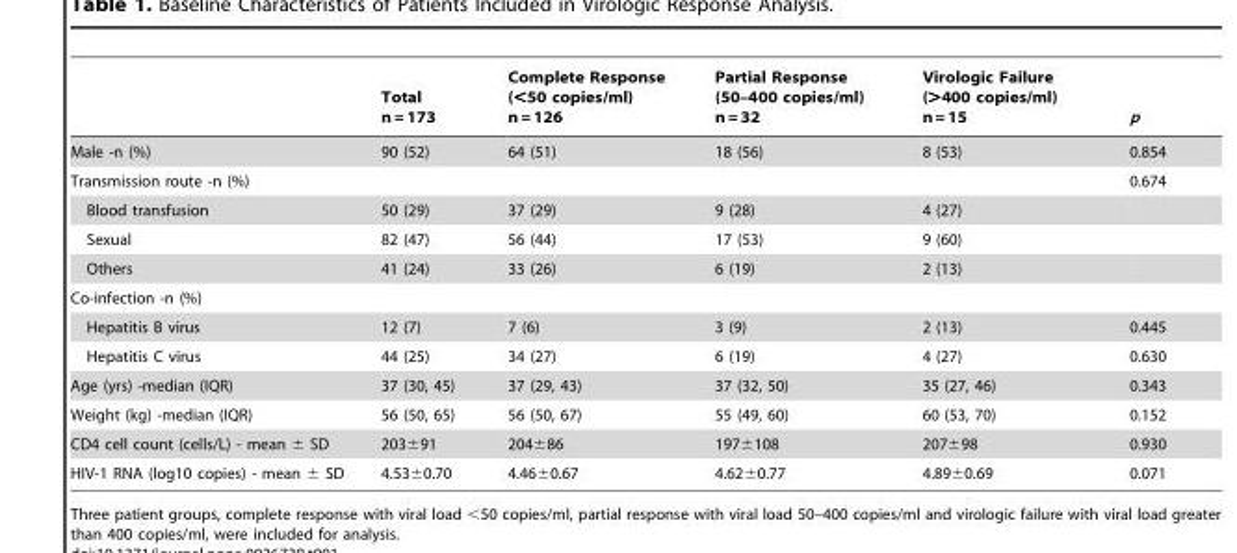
<table><thead><tr><td></td><td>Total n = 173</td><td>Complete Response (&lt;50 copies/ml) n = 126</td><td>Partial Response (50–400 copies/ml) n = 32</td><td>Virologic Failure (&gt;400 copies/ml) n = 15</td><td>p</td></tr></thead><tbody><tr><td>Male -n (%)</td><td>90 (52)</td><td>64 (51)</td><td>18 (56)</td><td>8 (53)</td><td>0.854</td></tr><tr><td>Transmission route -n (%)</td><td></td><td></td><td></td><td></td><td>0.674</td></tr><tr><td>Blood transfusion</td><td>50 (29)</td><td>37 (29)</td><td>9 (28)</td><td>4 (27)</td><td></td></tr><tr><td>Sexual</td><td>82 (47)</td><td>56 (44)</td><td>17 (53)</td><td>9 (60)</td><td></td></tr><tr><td>Others</td><td>41 (24)</td><td>33 (26)</td><td>6 (19)</td><td>2 (13)</td><td></td></tr><tr><td colspan="6">Co-infection -n (%)</td></tr><tr><td>Hepatitis B virus</td><td>12 (7)</td><td>7 (6)</td><td>3 (9)</td><td>2 (13)</td><td>0.445</td></tr><tr><td>Hepatitis C virus</td><td>44 (25)</td><td>34 (27)</td><td>6 (19)</td><td>4 (27)</td><td>0.630</td></tr><tr><td>Age (yrs) -median (IQR)</td><td>37 (30, 45)</td><td>37 (29, 43)</td><td>37 (32, 50)</td><td>35 (27, 46)</td><td>0.343</td></tr><tr><td>Weight (kg) -median (IQR)</td><td>56 (50, 65)</td><td>56 (50, 67)</td><td>55 (49, 60)</td><td>60 (53, 70)</td><td>0.152</td></tr><tr><td>CD4 cell count (cells/L) - mean ± SD</td><td>203±91</td><td>204±86</td><td>197±108</td><td>207±98</td><td>0.930</td></tr><tr><td>HIV-1 RNA (log10 copies) - mean ± SD</td><td>4.53±0.70</td><td>4.46±0.67</td><td>4.62±0.77</td><td>4.89±0.69</td><td>0.071</td></tr></tbody></table>